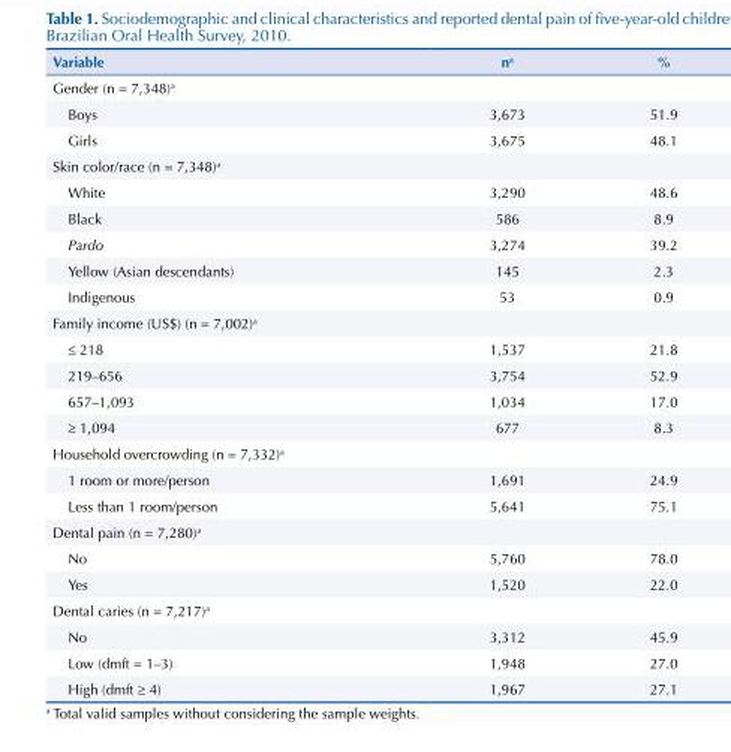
<table><thead><tr><td>Variable</td><td>n<sup>a</sup></td><td>%</td></tr></thead><tbody><tr><td colspan="3">Gender (n = 7,348)<sup>a</sup></td></tr><tr><td>Boys</td><td>3,673</td><td>51.9</td></tr><tr><td>Girls</td><td>3,675</td><td>48.1</td></tr><tr><td colspan="3">Skin color/race (n = 7,348)<sup>a</sup></td></tr><tr><td>White</td><td>3,290</td><td>48.6</td></tr><tr><td>Black</td><td>586</td><td>8.9</td></tr><tr><td>Pardo</td><td>3,274</td><td>39.2</td></tr><tr><td>Yellow (Asian descendants)</td><td>145</td><td>2.3</td></tr><tr><td>Indigenous</td><td>53</td><td>0.9</td></tr><tr><td colspan="3">Family income (US$) (n = 7,002)<sup>a</sup></td></tr><tr><td>≤ 218</td><td>1,537</td><td>21.8</td></tr><tr><td>219–656</td><td>3,754</td><td>52.9</td></tr><tr><td>657–1,093</td><td>1,034</td><td>17.0</td></tr><tr><td>≥ 1,094</td><td>677</td><td>8.3</td></tr><tr><td colspan="3">Household overcrowding (n = 7,332)<sup>a</sup></td></tr><tr><td>1 room or more/person</td><td>1,691</td><td>24.9</td></tr><tr><td>Less than 1 room/person</td><td>5,641</td><td>75.1</td></tr><tr><td colspan="3">Dental pain (n = 7,280)<sup>a</sup></td></tr><tr><td>No</td><td>5,760</td><td>78.0</td></tr><tr><td>Yes</td><td>1,520</td><td>22.0</td></tr><tr><td colspan="3">Dental caries (n = 7,217)<sup>a</sup></td></tr><tr><td>No</td><td>3,312</td><td>45.9</td></tr><tr><td>Low (dmft = 1–3)</td><td>1,948</td><td>27.0</td></tr><tr><td>High (dmft ≥ 4)</td><td>1,967</td><td>27.1</td></tr></tbody></table>